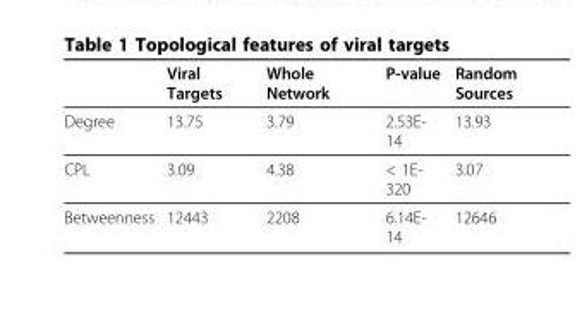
<table><thead><tr><td></td><td>Viral Targets</td><td>Whole Network</td><td>P-value</td><td>Random Sources</td></tr></thead><tbody><tr><td>Degree</td><td>13.75</td><td>3.79</td><td>2.53E- 14</td><td>13.93</td></tr><tr><td>CPL</td><td>3.09</td><td>4.38</td><td>&lt; 1E- 320</td><td>3.07</td></tr><tr><td>Betweenness</td><td>12443</td><td>2208</td><td>6.14E- 14</td><td>12646</td></tr></tbody></table>